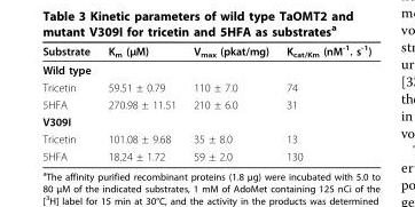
<table><thead><tr><td>Substrate</td><td>K<sub>m</sub> (μM)</td><td>V<sub>max</sub> (pkat/mg)</td><td>K<sub>cat/Km</sub> (nM<sup>-1</sup>. s<sup>-1</sup>)</td></tr></thead><tbody><tr><td colspan="4">Wild type</td></tr><tr><td>Tricetin</td><td>59.51 ± 0.79</td><td>110 ± 7.0</td><td>74</td></tr><tr><td>5HFA</td><td>270.98 ± 11.51</td><td>210 ± 6.0</td><td>31</td></tr><tr><td colspan="4">V309I</td></tr><tr><td>Tricetin</td><td>101.08 ± 9.68</td><td>35 ± 8.0</td><td>13</td></tr><tr><td>5HFA</td><td>18.24 ± 1.72</td><td>59 ± 2.0</td><td>130</td></tr></tbody></table>